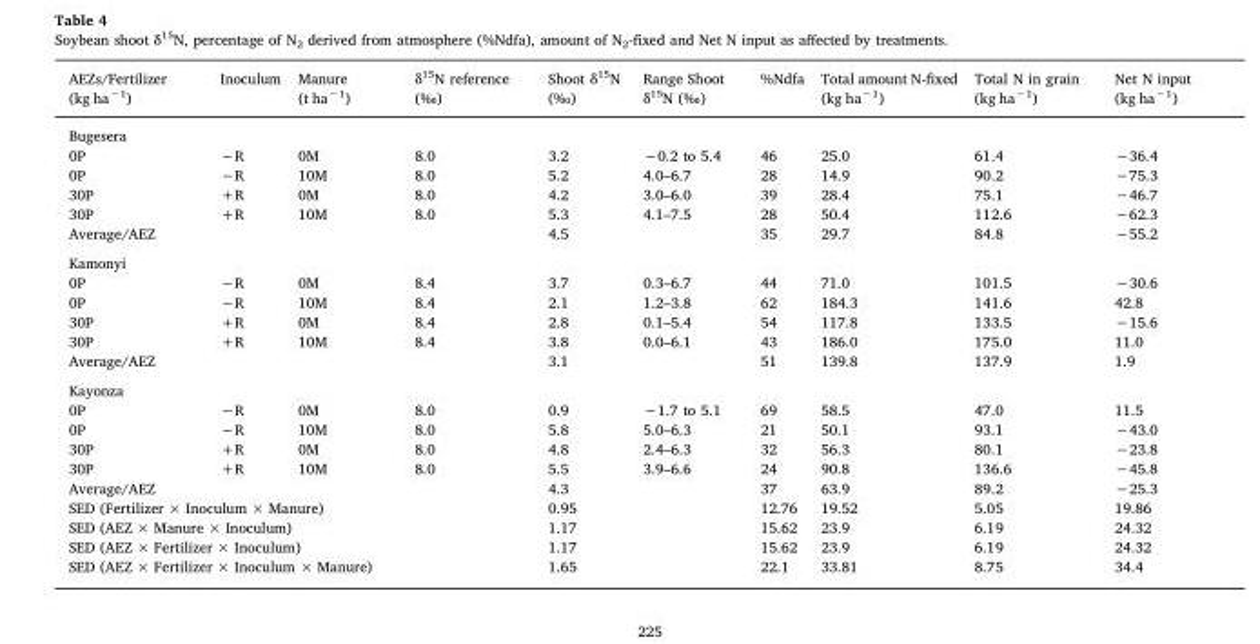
<table><thead><tr><td>AEZs/Fertilizer (kg ha<sup>−1</sup>)</td><td>Inoculum</td><td>Manure (t ha<sup>−1</sup>)</td><td>δ<sup>15</sup>N reference (‰)</td><td>Shoot δ<sup>15</sup>N (‰)</td><td>Range Shoot δ<sup>15</sup>N (‰)</td><td>%Ndfa</td><td>Total amount N-fixed (kg ha<sup>−1</sup>)</td><td>Total N in grain (kg ha<sup>−1</sup>)</td><td>Net N input (kg ha<sup>−1</sup>)</td></tr></thead><tbody><tr><td colspan="10">Bugesera</td></tr><tr><td>0P</td><td>−R</td><td>0M</td><td>8.0</td><td>3.2</td><td>−0.2 to 5.4</td><td>46</td><td>25.0</td><td>61.4</td><td>−36.4</td></tr><tr><td>0P</td><td>−R</td><td>10M</td><td>8.0</td><td>5.2</td><td>4.0–6.7</td><td>28</td><td>14.9</td><td>90.2</td><td>−75.3</td></tr><tr><td>30P</td><td>+R</td><td>0M</td><td>8.0</td><td>4.2</td><td>3.0–6.0</td><td>39</td><td>28.4</td><td>75.1</td><td>−46.7</td></tr><tr><td>30P</td><td>+R</td><td>10M</td><td>8.0</td><td>5.3</td><td>4.1–7.5</td><td>28</td><td>50.4</td><td>112.6</td><td>−62.3</td></tr><tr><td>Average/AEZ</td><td></td><td></td><td></td><td>4.5</td><td></td><td>35</td><td>29.7</td><td>84.8</td><td>−55.2</td></tr><tr><td colspan="10">Kamonyi</td></tr><tr><td>0P</td><td>−R</td><td>0M</td><td>8.4</td><td>3.7</td><td>0.3–6.7</td><td>44</td><td>71.0</td><td>101.5</td><td>−30.6</td></tr><tr><td>0P</td><td>−R</td><td>10M</td><td>8.4</td><td>2.1</td><td>1.2–3.8</td><td>62</td><td>184.3</td><td>141.6</td><td>42.8</td></tr><tr><td>30P</td><td>+R</td><td>0M</td><td>8.4</td><td>2.8</td><td>0.1–5.4</td><td>54</td><td>117.8</td><td>133.5</td><td>−15.6</td></tr><tr><td>30P</td><td>+R</td><td>10M</td><td>8.4</td><td>3.8</td><td>0.0–6.1</td><td>43</td><td>186.0</td><td>175.0</td><td>11.0</td></tr><tr><td>Average/AEZ</td><td></td><td></td><td></td><td>3.1</td><td></td><td>51</td><td>139.8</td><td>137.9</td><td>1.9</td></tr><tr><td colspan="10">Kayonza</td></tr><tr><td>0P</td><td>−R</td><td>0M</td><td>8.0</td><td>0.9</td><td>−1.7 to 5.1</td><td>69</td><td>58.5</td><td>47.0</td><td>11.5</td></tr><tr><td>0P</td><td>−R</td><td>10M</td><td>8.0</td><td>5.8</td><td>5.0–6.3</td><td>21</td><td>50.1</td><td>93.1</td><td>−43.0</td></tr><tr><td>30P</td><td>+R</td><td>0M</td><td>8.0</td><td>4.8</td><td>2.4–6.3</td><td>32</td><td>56.3</td><td>80.1</td><td>−23.8</td></tr><tr><td>30P</td><td>+R</td><td>10M</td><td>8.0</td><td>5.5</td><td>3.9–6.6</td><td>24</td><td>90.8</td><td>136.6</td><td>−45.8</td></tr><tr><td>Average/AEZ</td><td></td><td></td><td></td><td>4.3</td><td></td><td>37</td><td>63.9</td><td>89.2</td><td>−25.3</td></tr><tr><td colspan="4">SED (Fertilizer × Inoculum × Manure)</td><td>0.95</td><td></td><td>12.76</td><td>19.52</td><td>5.05</td><td>19.86</td></tr><tr><td colspan="4">SED (AEZ × Manure × Inoculum)</td><td>1.17</td><td></td><td>15.62</td><td>23.9</td><td>6.19</td><td>24.32</td></tr><tr><td colspan="4">SED (AEZ × Fertilizer × Inoculum)</td><td>1.17</td><td></td><td>15.62</td><td>23.9</td><td>6.19</td><td>24.32</td></tr><tr><td colspan="4">SED (AEZ × Fertilizer × Inoculum × Manure)</td><td>1.65</td><td></td><td>22.1</td><td>33.81</td><td>8.75</td><td>34.4</td></tr></tbody></table>